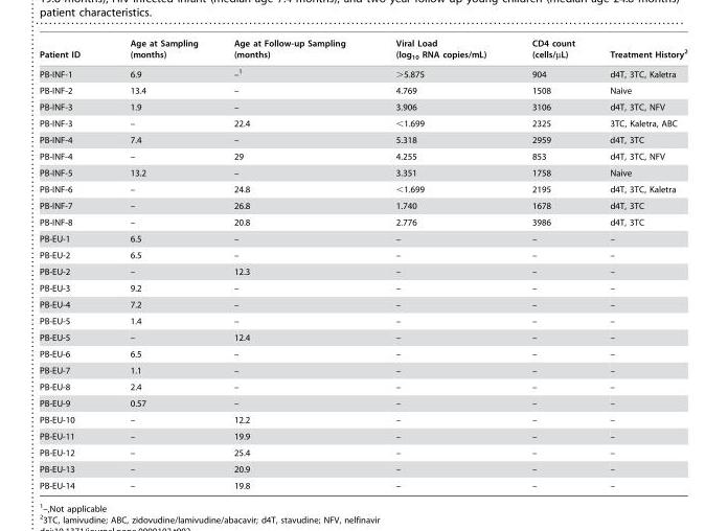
<table><thead><tr><td>Patient ID</td><td>Age at Sampling (months)</td><td>Age at Follow-up Sampling (months)</td><td>Viral Load (log<sub>10</sub> RNA copies/mL)</td><td>CD4 count (cells/µL)</td><td>Treatment History<sup>2</sup></td></tr></thead><tbody><tr><td>PB-INF-1</td><td>6.9</td><td>–1</td><td>&gt;5.875</td><td>904</td><td>d4T, 3TC, Kaletra</td></tr><tr><td>PB-INF-2</td><td>13.4</td><td>–</td><td>4.769</td><td>1508</td><td>Naive</td></tr><tr><td>PB-INF-3</td><td>1.9</td><td>–</td><td>3.906</td><td>3106</td><td>d4T, 3TC, NFV</td></tr><tr><td>PB-INF-3</td><td>–</td><td>22.4</td><td>&lt;1.699</td><td>2325</td><td>3TC, Kaletra, ABC</td></tr><tr><td>PB-INF-4</td><td>7.4</td><td>–</td><td>5.318</td><td>2959</td><td>d4T, 3TC</td></tr><tr><td>PB-INF-4</td><td>–</td><td>29</td><td>4.255</td><td>853</td><td>d4T, 3TC, NFV</td></tr><tr><td>PB-INF-5</td><td>13.2</td><td>–</td><td>3.351</td><td>1758</td><td>Naive</td></tr><tr><td>PB-INF-6</td><td>–</td><td>24.8</td><td>&lt;1.699</td><td>2195</td><td>d4T, 3TC, Kaletra</td></tr><tr><td>PB-INF-7</td><td>–</td><td>26.8</td><td>1.740</td><td>1678</td><td>d4T, 3TC</td></tr><tr><td>PB-INF-8</td><td>–</td><td>20.8</td><td>2.776</td><td>3986</td><td>d4T, 3TC</td></tr><tr><td>PB-EU-1</td><td>6.5</td><td>–</td><td>–</td><td>–</td><td>–</td></tr><tr><td>PB-EU-2</td><td>6.5</td><td>–</td><td>–</td><td>–</td><td>–</td></tr><tr><td>PB-EU-2</td><td>–</td><td>12.3</td><td>–</td><td>–</td><td>–</td></tr><tr><td>PB-EU-3</td><td>9.2</td><td>–</td><td>–</td><td>–</td><td>–</td></tr><tr><td>PB-EU-4</td><td>7.2</td><td>–</td><td>–</td><td>–</td><td>–</td></tr><tr><td>PB-EU-5</td><td>1.4</td><td>–</td><td>–</td><td>–</td><td>–</td></tr><tr><td>PB-EU-5</td><td>–</td><td>12.4</td><td>–</td><td>–</td><td>–</td></tr><tr><td>PB-EU-6</td><td>6.5</td><td>–</td><td>–</td><td>–</td><td>–</td></tr><tr><td>PB-EU-7</td><td>1.1</td><td>–</td><td>–</td><td>–</td><td>–</td></tr><tr><td>PB-EU-8</td><td>2.4</td><td>–</td><td>–</td><td>–</td><td>–</td></tr><tr><td>PB-EU-9</td><td>0.57</td><td>–</td><td>–</td><td>–</td><td>–</td></tr><tr><td>PB-EU-10</td><td>–</td><td>12.2</td><td>–</td><td>–</td><td>–</td></tr><tr><td>PB-EU-11</td><td>–</td><td>19.9</td><td>–</td><td>–</td><td>–</td></tr><tr><td>PB-EU-12</td><td>–</td><td>25.4</td><td>–</td><td>–</td><td>–</td></tr><tr><td>PB-EU-13</td><td>–</td><td>20.9</td><td>–</td><td>–</td><td>–</td></tr><tr><td>PB-EU-14</td><td>–</td><td>19.8</td><td>–</td><td>–</td><td>–</td></tr></tbody></table>